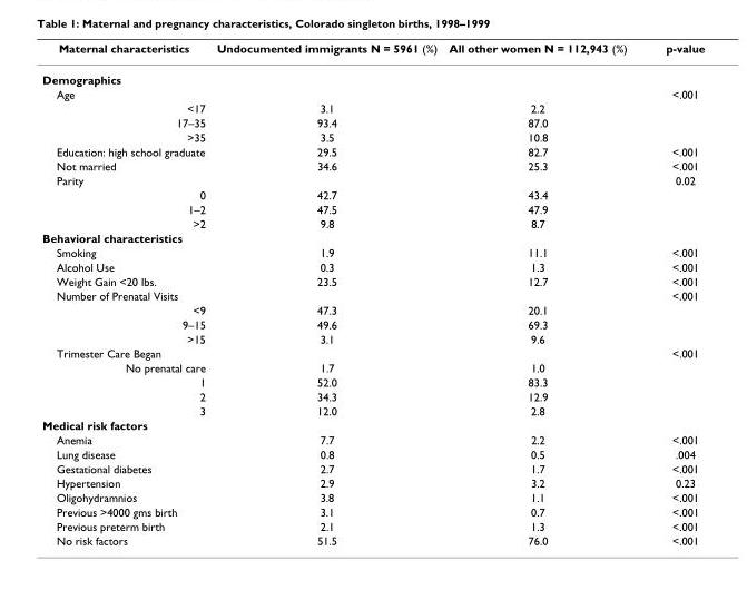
<table><thead><tr><td>Maternal characteristics</td><td>Undocumented immigrants N = 5961 (%)</td><td>All other women N = 112,943 (%)</td><td>p-value</td></tr></thead><tbody><tr><td colspan="4">Demographics</td></tr><tr><td>Age</td><td></td><td></td><td>&lt;.001</td></tr><tr><td>&lt;17</td><td>3.1</td><td>2.2</td><td></td></tr><tr><td>17–35</td><td>93.4</td><td>87.0</td><td></td></tr><tr><td>&gt;35</td><td>3.5</td><td>10.8</td><td></td></tr><tr><td>Education: high school graduate</td><td>29.5</td><td>82.7</td><td>&lt;.001</td></tr><tr><td>Not married</td><td>34.6</td><td>25.3</td><td>&lt;.001</td></tr><tr><td>Parity</td><td></td><td></td><td>0.02</td></tr><tr><td>0</td><td>42.7</td><td>43.4</td><td></td></tr><tr><td>1–2</td><td>47.5</td><td>47.9</td><td></td></tr><tr><td>&gt;2</td><td>9.8</td><td>8.7</td><td></td></tr><tr><td colspan="4">Behavioral characteristics</td></tr><tr><td>Smoking</td><td>1.9</td><td>11.1</td><td>&lt;.001</td></tr><tr><td>Alcohol Use</td><td>0.3</td><td>1.3</td><td>&lt;.001</td></tr><tr><td>Weight Gain &lt;20 lbs.</td><td>23.5</td><td>12.7</td><td>&lt;.001</td></tr><tr><td>Number of Prenatal Visits</td><td></td><td></td><td>&lt;.001</td></tr><tr><td>&lt;9</td><td>47.3</td><td>20.1</td><td></td></tr><tr><td>9–15</td><td>49.6</td><td>69.3</td><td></td></tr><tr><td>&gt;15</td><td>3.1</td><td>9.6</td><td></td></tr><tr><td>Trimester Care Began</td><td></td><td></td><td>&lt;.001</td></tr><tr><td>No prenatal care</td><td>1.7</td><td>1.0</td><td></td></tr><tr><td>1</td><td>52.0</td><td>83.3</td><td></td></tr><tr><td>2</td><td>34.3</td><td>12.9</td><td></td></tr><tr><td>3</td><td>12.0</td><td>2.8</td><td></td></tr><tr><td colspan="4">Medical risk factors</td></tr><tr><td>Anemia</td><td>7.7</td><td>2.2</td><td>&lt;.001</td></tr><tr><td>Lung disease</td><td>0.8</td><td>0.5</td><td>.004</td></tr><tr><td>Gestational diabetes</td><td>2.7</td><td>1.7</td><td>&lt;.001</td></tr><tr><td>Hypertension</td><td>2.9</td><td>3.2</td><td>0.23</td></tr><tr><td>Oligohydramnios</td><td>3.8</td><td>1.1</td><td>&lt;.001</td></tr><tr><td>Previous &gt;4000 gms birth</td><td>3.1</td><td>0.7</td><td>&lt;.001</td></tr><tr><td>Previous preterm birth</td><td>2.1</td><td>1.3</td><td>&lt;.001</td></tr><tr><td>No risk factors</td><td>51.5</td><td>76.0</td><td>&lt;.001</td></tr></tbody></table>